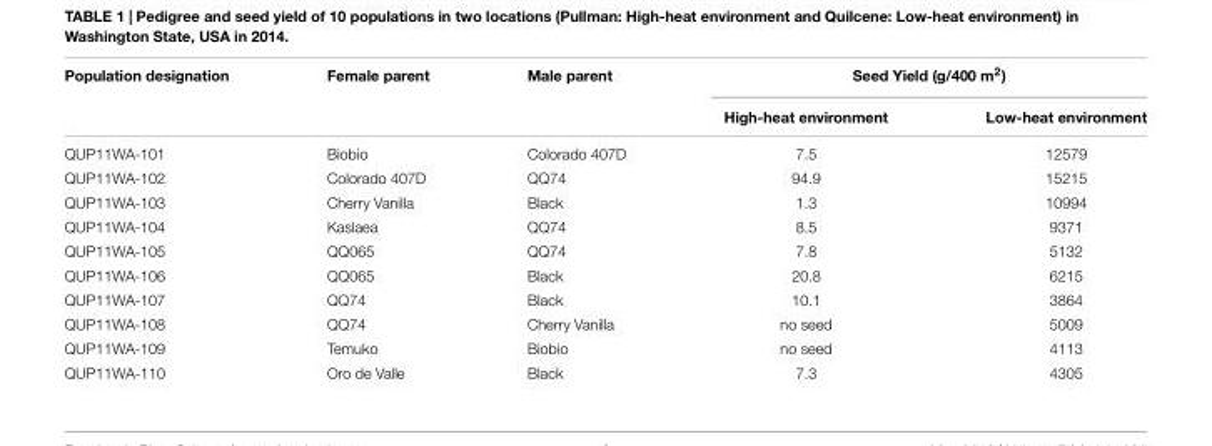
<table><thead><tr><td rowspan="2">Population designation</td><td rowspan="2">Female parent</td><td rowspan="2">Male parent</td><td colspan="2">Seed Yield (g/400 m<sup>2</sup>)</td></tr><tr><td>High-heat environment</td><td>Low-heat environment</td></tr></thead><tbody><tr><td>QUP11WA-101</td><td>Biobio</td><td>Colorado 407D</td><td>7.5</td><td>12579</td></tr><tr><td>QUP11WA-102</td><td>Colorado 407D</td><td>QQ74</td><td>94.9</td><td>15215</td></tr><tr><td>QUP11WA-103</td><td>Cherry Vanilla</td><td>Black</td><td>1.3</td><td>10994</td></tr><tr><td>QUP11WA-104</td><td>Kaslaea</td><td>QQ74</td><td>8.5</td><td>9371</td></tr><tr><td>QUP11WA-105</td><td>QQ065</td><td>QQ74</td><td>7.8</td><td>5132</td></tr><tr><td>QUP11WA-106</td><td>QQ065</td><td>Black</td><td>20.8</td><td>6215</td></tr><tr><td>QUP11WA-107</td><td>QQ74</td><td>Black</td><td>10.1</td><td>3864</td></tr><tr><td>QUP11WA-108</td><td>QQ74</td><td>Cherry Vanilla</td><td>no seed</td><td>5009</td></tr><tr><td>QUP11WA-109</td><td>Temuko</td><td>Biobio</td><td>no seed</td><td>4113</td></tr><tr><td>QUP11WA-110</td><td>Oro de Valle</td><td>Black</td><td>7.3</td><td>4305</td></tr></tbody></table>